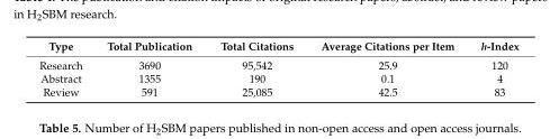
<table><thead><tr><td>Type</td><td>Total Publication</td><td>Total Citations</td><td>Average Citations per Item</td><td>h-Index</td></tr></thead><tbody><tr><td>Research</td><td>3690</td><td>95,542</td><td>25.9</td><td>120</td></tr><tr><td>Abstract</td><td>1355</td><td>190</td><td>0.1</td><td>4</td></tr><tr><td>Review</td><td>591</td><td>25,085</td><td>42.5</td><td>83</td></tr></tbody></table>